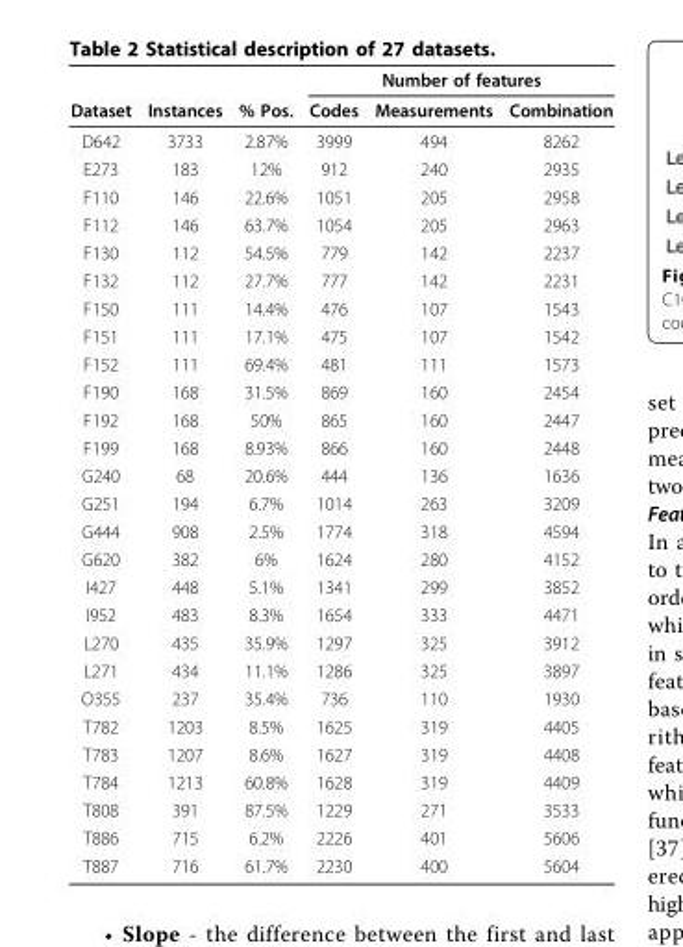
<table><thead><tr><td rowspan="2">Dataset</td><td rowspan="2">Instances</td><td rowspan="2">% Pos.</td><td colspan="3">Number of features</td></tr><tr><td>Codes</td><td>Measurements</td><td>Combination</td></tr></thead><tbody><tr><td>D642</td><td>3733</td><td>2.87%</td><td>3999</td><td>494</td><td>8262</td></tr><tr><td>E273</td><td>183</td><td>12%</td><td>912</td><td>240</td><td>2935</td></tr><tr><td>F110</td><td>146</td><td>22.6%</td><td>1051</td><td>205</td><td>2958</td></tr><tr><td>F112</td><td>146</td><td>63.7%</td><td>1054</td><td>205</td><td>2963</td></tr><tr><td>F130</td><td>112</td><td>54.5%</td><td>779</td><td>142</td><td>2237</td></tr><tr><td>F132</td><td>112</td><td>27.7%</td><td>777</td><td>142</td><td>2231</td></tr><tr><td>F150</td><td>111</td><td>14.4%</td><td>476</td><td>107</td><td>1543</td></tr><tr><td>F151</td><td>111</td><td>17.1%</td><td>475</td><td>107</td><td>1542</td></tr><tr><td>F152</td><td>111</td><td>69.4%</td><td>481</td><td>111</td><td>1573</td></tr><tr><td>F190</td><td>168</td><td>31.5%</td><td>869</td><td>160</td><td>2454</td></tr><tr><td>F192</td><td>168</td><td>50%</td><td>865</td><td>160</td><td>2447</td></tr><tr><td>F199</td><td>168</td><td>8.93%</td><td>866</td><td>160</td><td>2448</td></tr><tr><td>G240</td><td>68</td><td>20.6%</td><td>444</td><td>136</td><td>1636</td></tr><tr><td>G251</td><td>194</td><td>6.7%</td><td>1014</td><td>263</td><td>3209</td></tr><tr><td>G444</td><td>908</td><td>2.5%</td><td>1774</td><td>318</td><td>4594</td></tr><tr><td>G620</td><td>382</td><td>6%</td><td>1624</td><td>280</td><td>4152</td></tr><tr><td>I427</td><td>448</td><td>5.1%</td><td>1341</td><td>299</td><td>3852</td></tr><tr><td>I952</td><td>483</td><td>8.3%</td><td>1654</td><td>333</td><td>4471</td></tr><tr><td>L270</td><td>435</td><td>35.9%</td><td>1297</td><td>325</td><td>3912</td></tr><tr><td>L271</td><td>434</td><td>11.1%</td><td>1286</td><td>325</td><td>3897</td></tr><tr><td>O355</td><td>237</td><td>35.4%</td><td>736</td><td>110</td><td>1930</td></tr><tr><td>T782</td><td>1203</td><td>8.5%</td><td>1625</td><td>319</td><td>4405</td></tr><tr><td>T783</td><td>1207</td><td>8.6%</td><td>1627</td><td>319</td><td>4408</td></tr><tr><td>T784</td><td>1213</td><td>60.8%</td><td>1628</td><td>319</td><td>4409</td></tr><tr><td>T808</td><td>391</td><td>87.5%</td><td>1229</td><td>271</td><td>3533</td></tr><tr><td>T886</td><td>715</td><td>6.2%</td><td>2226</td><td>401</td><td>5606</td></tr><tr><td>T887</td><td>716</td><td>61.7%</td><td>2230</td><td>400</td><td>5604</td></tr></tbody></table>